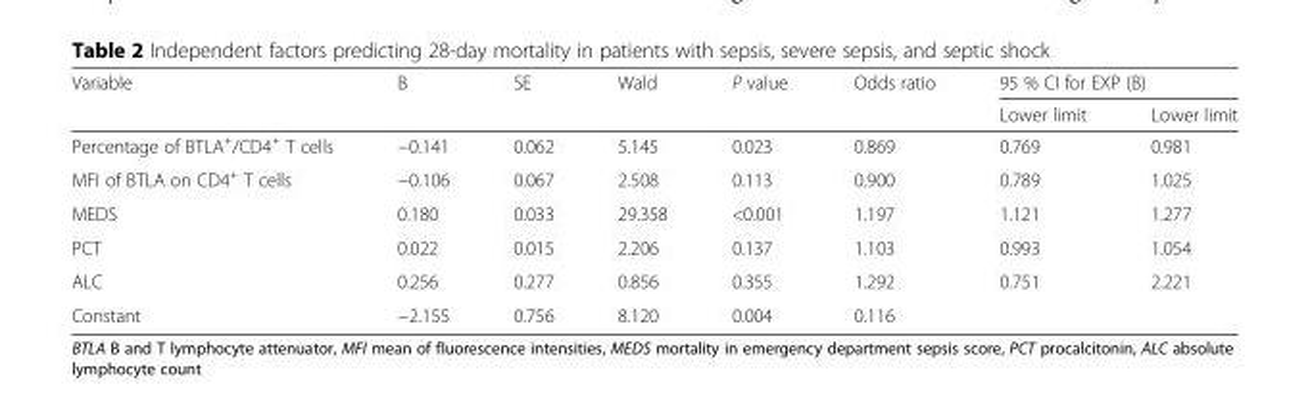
<table><thead><tr><td rowspan="2">Variable</td><td rowspan="2">B</td><td rowspan="2">SE</td><td rowspan="2">Wald</td><td rowspan="2">P value</td><td rowspan="2">Odds ratio</td><td colspan="2">95 % CI for EXP (B)</td></tr><tr><td>Lower limit</td><td>Lower limit</td></tr></thead><tbody><tr><td>Percentage of BTLA<sup>+</sup>/CD4<sup>+</sup> T cells</td><td>−0.141</td><td>0.062</td><td>5.145</td><td>0.023</td><td>0.869</td><td>0.769</td><td>0.981</td></tr><tr><td>MFI of BTLA on CD4<sup>+</sup> T cells</td><td>−0.106</td><td>0.067</td><td>2.508</td><td>0.113</td><td>0.900</td><td>0.789</td><td>1.025</td></tr><tr><td>MEDS</td><td>0.180</td><td>0.033</td><td>29.358</td><td>&lt;0.001</td><td>1.197</td><td>1.121</td><td>1.277</td></tr><tr><td>PCT</td><td>0.022</td><td>0.015</td><td>2.206</td><td>0.137</td><td>1.103</td><td>0.993</td><td>1.054</td></tr><tr><td>ALC</td><td>0.256</td><td>0.277</td><td>0.856</td><td>0.355</td><td>1.292</td><td>0.751</td><td>2.221</td></tr><tr><td>Constant</td><td>−2.155</td><td>0.756</td><td>8.120</td><td>0.004</td><td>0.116</td><td></td><td></td></tr></tbody></table>